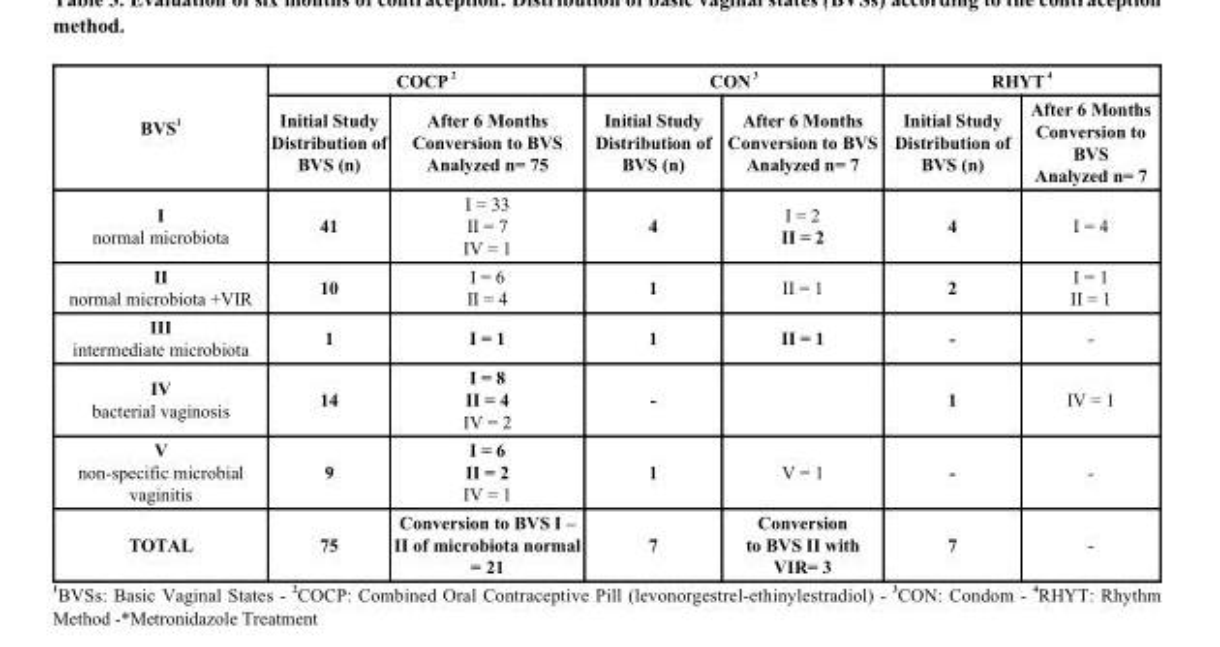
<table><thead><tr><td rowspan="2">BVS <sup>1</sup></td><td colspan="2">COCP <sup>2</sup></td><td colspan="2">CON <sup>3</sup></td><td colspan="2">RHYT <sup>4</sup></td></tr><tr><td>Initial Study Distribution of BVS (n)</td><td>After 6 Months Conversion to BVS Analyzed n= 75</td><td>Initial Study Distribution of BVS (n)</td><td>After 6 Months Conversion to BVS Analyzed n= 7</td><td>Initial Study Distribution of BVS (n)</td><td>After 6 Months Conversion to BVS Analyzed n= 7</td></tr></thead><tbody><tr><td>I normal microbiota</td><td>41</td><td>I = 33 II = 7 IV = 1</td><td>4</td><td>I = 2 II = 2</td><td>4</td><td>I = 4</td></tr><tr><td>II normal microbiota +VIR</td><td>10</td><td>I = 6 II = 4</td><td>1</td><td>II = 1</td><td>2</td><td>I = 1 II = 1</td></tr><tr><td>III intermediate microbiota</td><td>1</td><td>I = 1</td><td>1</td><td>II = 1</td><td>-</td><td>-</td></tr><tr><td>IV bacterial vaginosis</td><td>14</td><td>I = 8 II = 4 IV = 2</td><td>-</td><td></td><td>1</td><td>IV = 1</td></tr><tr><td>V non-specific microbial vaginitis</td><td>9</td><td>I = 6 II = 2 IV = 1</td><td>1</td><td>V = 1</td><td>-</td><td>-</td></tr><tr><td>TOTAL</td><td>75</td><td>Conversion to BVS I – II of microbiota normal = 21</td><td>7</td><td>Conversion to BVS II with VIR= 3</td><td>7</td><td>-</td></tr></tbody></table>